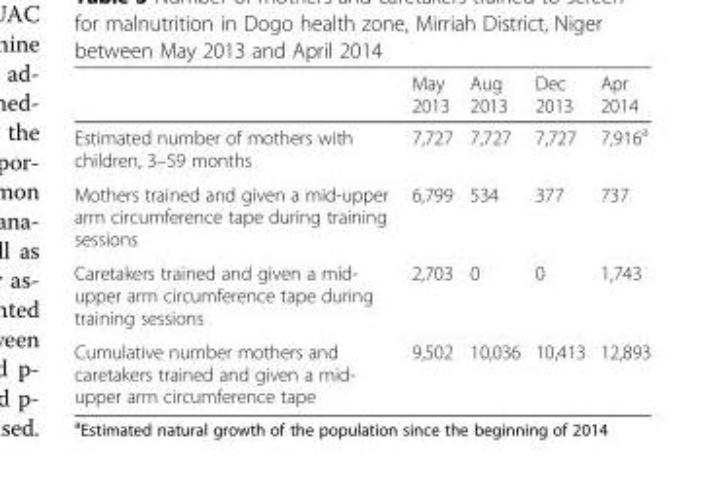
<table><thead><tr><td></td><td>May 2013</td><td>Aug 2013</td><td>Dec 2013</td><td>Apr 2014</td></tr></thead><tbody><tr><td>Estimated number of mothers with children, 3–59 months</td><td>7,727</td><td>7,727</td><td>7,727</td><td>7,916<sup>a</sup></td></tr><tr><td>Mothers trained and given a mid-upper arm circumference tape during training sessions</td><td>6,799</td><td>534</td><td>377</td><td>737</td></tr><tr><td>Caretakers trained and given a mid- upper arm circumference tape during training sessions</td><td>2,703</td><td>0</td><td>0</td><td>1,743</td></tr><tr><td>Cumulative number mothers and caretakers trained and given a mid- upper arm circumference tape</td><td>9,502</td><td>10,036</td><td>10,413</td><td>12,893</td></tr></tbody></table>